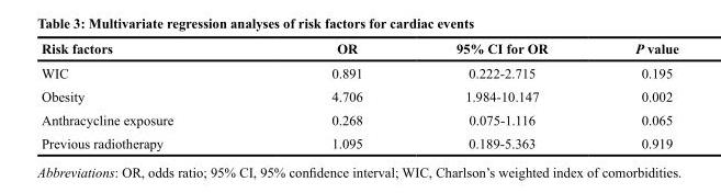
<table><thead><tr><td>Risk factors</td><td>OR</td><td>95% CI for OR</td><td>P value</td></tr></thead><tbody><tr><td>WIC</td><td>0.891</td><td>0.222-2.715</td><td>0.195</td></tr><tr><td>Obesity</td><td>4.706</td><td>1.984-10.147</td><td>0.002</td></tr><tr><td>Anthracycline exposure</td><td>0.268</td><td>0.075-1.116</td><td>0.065</td></tr><tr><td>Previous radiotherapy</td><td>1.095</td><td>0.189-5.363</td><td>0.919</td></tr></tbody></table>